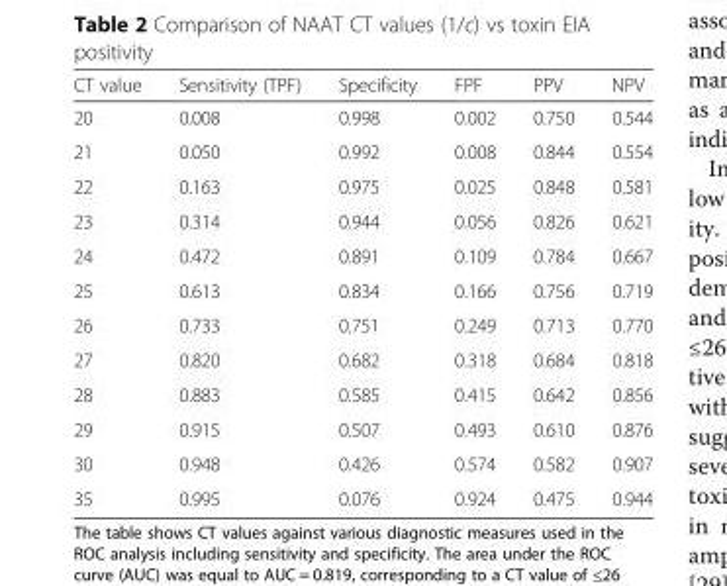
<table><thead><tr><td>CT value</td><td>Sensitivity (TPF)</td><td>Specificity</td><td>FPF</td><td>PPV</td><td>NPV</td></tr></thead><tbody><tr><td>20</td><td>0.008</td><td>0.998</td><td>0.002</td><td>0.750</td><td>0.544</td></tr><tr><td>21</td><td>0.050</td><td>0.992</td><td>0.008</td><td>0.844</td><td>0.554</td></tr><tr><td>22</td><td>0.163</td><td>0.975</td><td>0.025</td><td>0.848</td><td>0.581</td></tr><tr><td>23</td><td>0.314</td><td>0.944</td><td>0.056</td><td>0.826</td><td>0.621</td></tr><tr><td>24</td><td>0.472</td><td>0.891</td><td>0.109</td><td>0.784</td><td>0.667</td></tr><tr><td>25</td><td>0.613</td><td>0.834</td><td>0.166</td><td>0.756</td><td>0.719</td></tr><tr><td>26</td><td>0.733</td><td>0.751</td><td>0.249</td><td>0.713</td><td>0.770</td></tr><tr><td>27</td><td>0.820</td><td>0.682</td><td>0.318</td><td>0.684</td><td>0.818</td></tr><tr><td>28</td><td>0.883</td><td>0.585</td><td>0.415</td><td>0.642</td><td>0.856</td></tr><tr><td>29</td><td>0.915</td><td>0.507</td><td>0.493</td><td>0.610</td><td>0.876</td></tr><tr><td>30</td><td>0.948</td><td>0.426</td><td>0.574</td><td>0.582</td><td>0.907</td></tr><tr><td>35</td><td>0.995</td><td>0.076</td><td>0.924</td><td>0.475</td><td>0.944</td></tr></tbody></table>